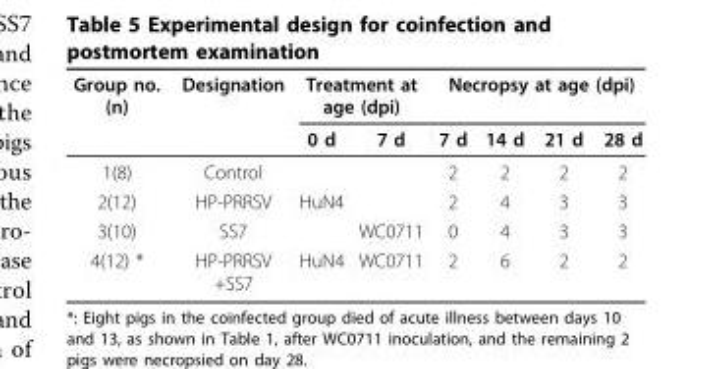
<table><thead><tr><td rowspan="2">Group no. (n)</td><td rowspan="2">Designation</td><td colspan="2">Treatment at age (dpi)</td><td colspan="4">Necropsy at age (dpi)</td></tr><tr><td>0 d</td><td>7 d</td><td>7 d</td><td>14 d</td><td>21 d</td><td>28 d</td></tr></thead><tbody><tr><td>1(8)</td><td>Control</td><td></td><td></td><td>2</td><td>2</td><td>2</td><td>2</td></tr><tr><td>2(12)</td><td>HP-PRRSV</td><td>HuN4</td><td></td><td>2</td><td>4</td><td>3</td><td>3</td></tr><tr><td>3(10)</td><td>SS7</td><td></td><td>WC0711</td><td>0</td><td>4</td><td>3</td><td>3</td></tr><tr><td>4(12) *</td><td>HP-PRRSV +SS7</td><td>HuN4</td><td>WC0711</td><td>2</td><td>6</td><td>2</td><td>2</td></tr></tbody></table>